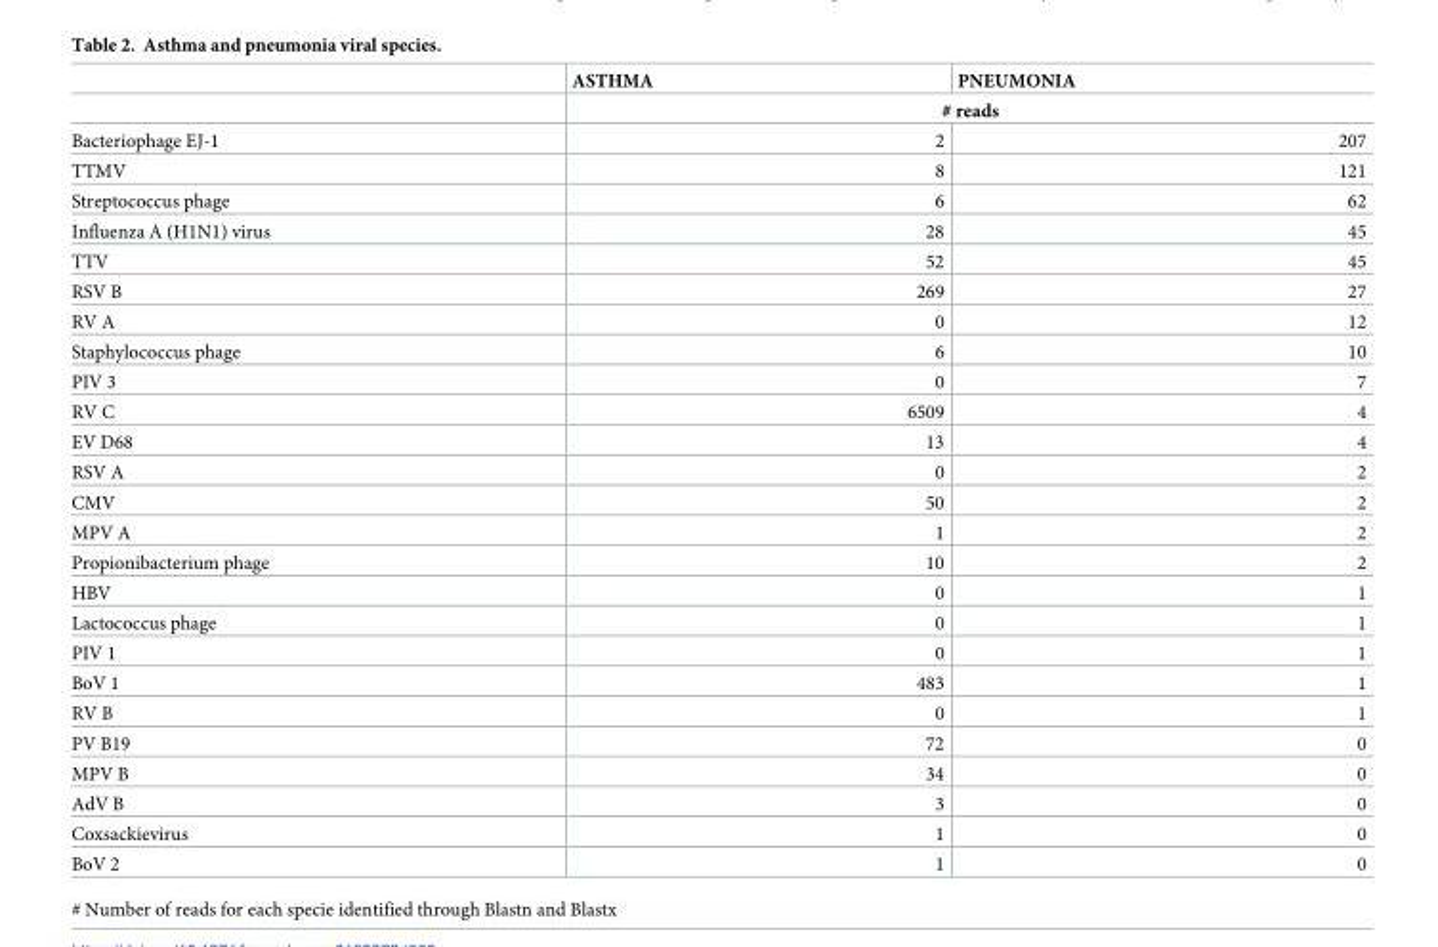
<table><thead><tr><td rowspan="2"></td><td>ASTHMA</td><td>PNEUMONIA</td></tr><tr><td colspan="2"># reads</td></tr></thead><tbody><tr><td>Bacteriophage EJ-1</td><td>2</td><td>207</td></tr><tr><td>TTMV</td><td>8</td><td>121</td></tr><tr><td>Streptococcus phage</td><td>6</td><td>62</td></tr><tr><td>Influenza A (H1N1) virus</td><td>28</td><td>45</td></tr><tr><td>TTV</td><td>52</td><td>45</td></tr><tr><td>RSV B</td><td>269</td><td>27</td></tr><tr><td>RV A</td><td>0</td><td>12</td></tr><tr><td>Staphylococcus phage</td><td>6</td><td>10</td></tr><tr><td>PIV 3</td><td>0</td><td>7</td></tr><tr><td>RV C</td><td>6509</td><td>4</td></tr><tr><td>EV D68</td><td>13</td><td>4</td></tr><tr><td>RSV A</td><td>0</td><td>2</td></tr><tr><td>CMV</td><td>50</td><td>2</td></tr><tr><td>MPV A</td><td>1</td><td>2</td></tr><tr><td>Propionibacterium phage</td><td>10</td><td>2</td></tr><tr><td>HBV</td><td>0</td><td>1</td></tr><tr><td>Lactococcus phage</td><td>0</td><td>1</td></tr><tr><td>PIV 1</td><td>0</td><td>1</td></tr><tr><td>BoV 1</td><td>483</td><td>1</td></tr><tr><td>RV B</td><td>0</td><td>1</td></tr><tr><td>PV B19</td><td>72</td><td>0</td></tr><tr><td>MPV B</td><td>34</td><td>0</td></tr><tr><td>AdV B</td><td>3</td><td>0</td></tr><tr><td>Coxsackievirus</td><td>1</td><td>0</td></tr><tr><td>BoV 2</td><td>1</td><td>0</td></tr></tbody></table>